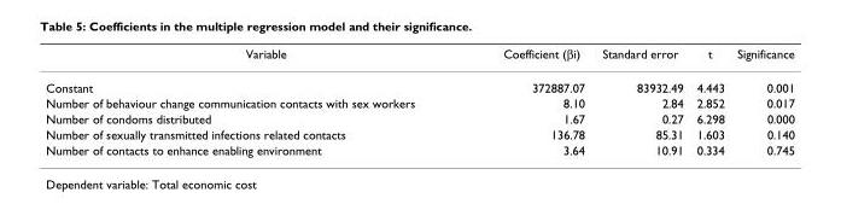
<table><thead><tr><td>Variable</td><td>Coefficient (βi)</td><td>Standard error</td><td>t</td><td>Significance</td></tr></thead><tbody><tr><td>Constant</td><td>372887.07</td><td>83932.49</td><td>4.443</td><td>0.001</td></tr><tr><td>Number of behaviour change communication contacts with sex workers</td><td>8.10</td><td>2.84</td><td>2.852</td><td>0.017</td></tr><tr><td>Number of condoms distributed</td><td>1.67</td><td>0.27</td><td>6.298</td><td>0.000</td></tr><tr><td>Number of sexually transmitted infections related contacts</td><td>136.78</td><td>85.31</td><td>1.603</td><td>0.140</td></tr><tr><td>Number of contacts to enhance enabling environment</td><td>3.64</td><td>10.91</td><td>0.334</td><td>0.745</td></tr></tbody></table>